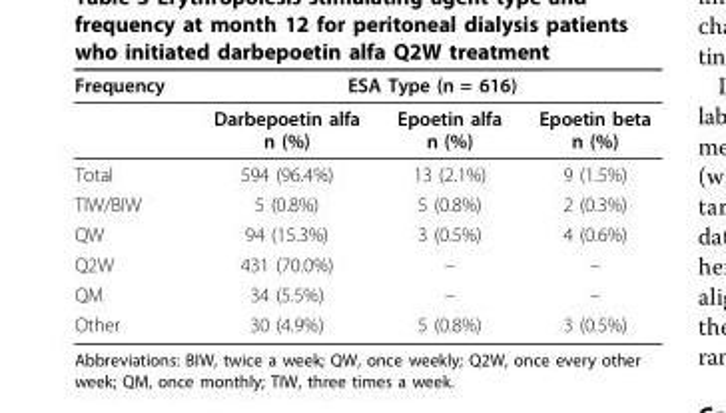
<table><thead><tr><td rowspan="2">Frequency</td><td colspan="3">ESA Type (n = 616)</td></tr><tr><td>Darbepoetin alfa n (%)</td><td>Epoetin alfa n (%)</td><td>Epoetin beta n (%)</td></tr></thead><tbody><tr><td>Total</td><td>594 (96.4%)</td><td>13 (2.1%)</td><td>9 (1.5%)</td></tr><tr><td>TIW/BIW</td><td>5 (0.8%)</td><td>5 (0.8%)</td><td>2 (0.3%)</td></tr><tr><td>QW</td><td>94 (15.3%)</td><td>3 (0.5%)</td><td>4 (0.6%)</td></tr><tr><td>Q2W</td><td>431 (70.0%)</td><td>–</td><td>–</td></tr><tr><td>QM</td><td>34 (5.5%)</td><td>–</td><td>–</td></tr><tr><td>Other</td><td>30 (4.9%)</td><td>5 (0.8%)</td><td>3 (0.5%)</td></tr></tbody></table>